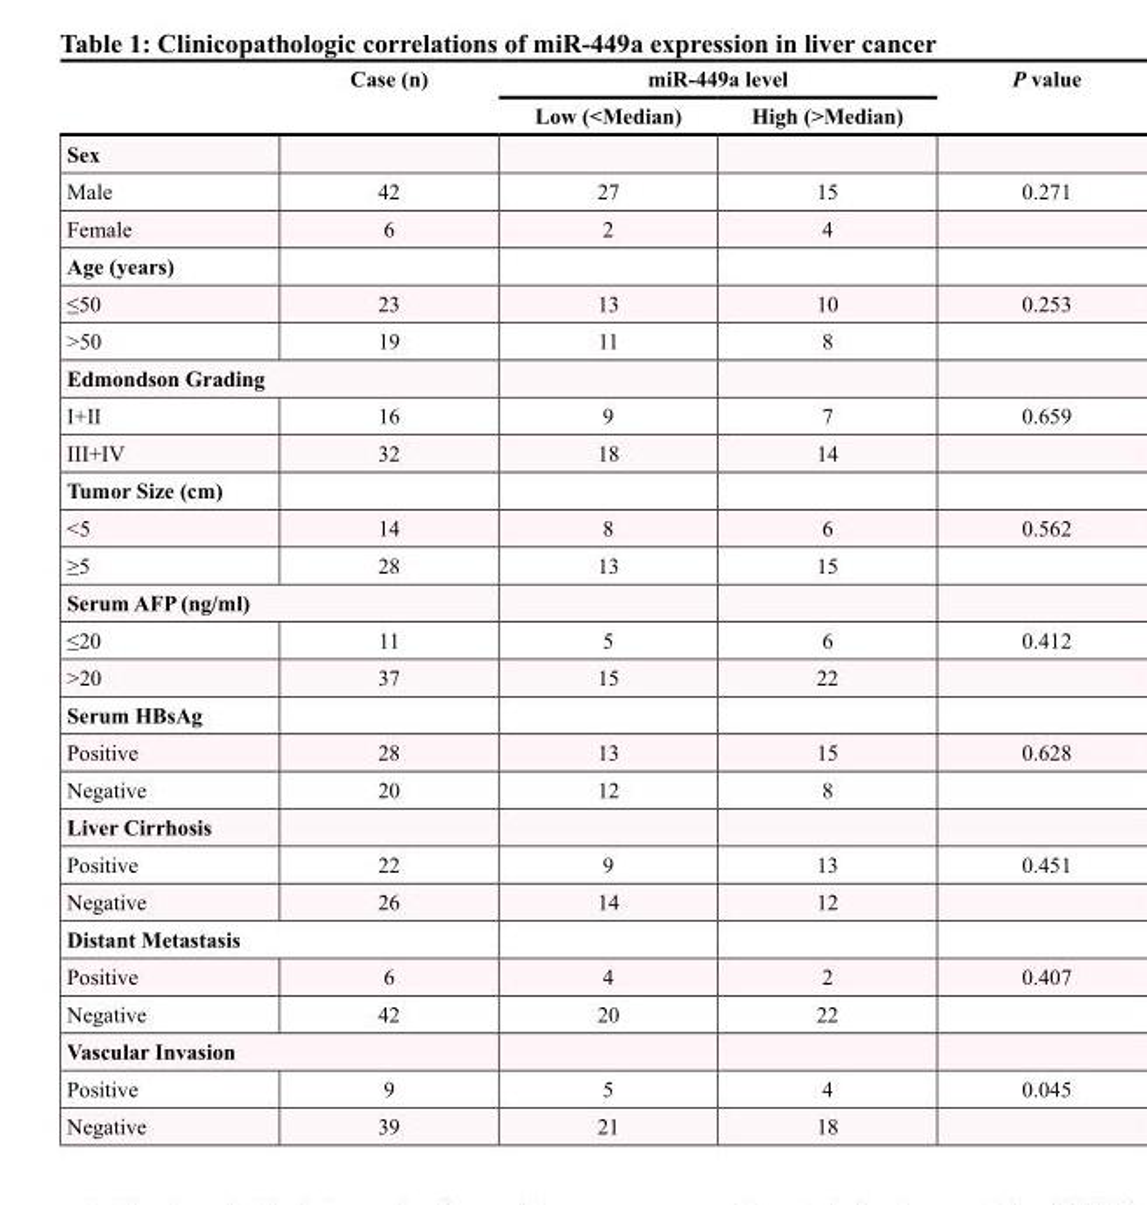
<table><thead><tr><td rowspan="2"></td><td rowspan="2">Case (n)</td><td colspan="2">miR-449a level</td><td rowspan="2">P value</td></tr><tr><td>Low (&lt;Median)</td><td>High (&gt;Median)</td></tr></thead><tbody><tr><td colspan="5">Sex</td></tr><tr><td>Male</td><td>42</td><td>27</td><td>15</td><td>0.271</td></tr><tr><td>Female</td><td>6</td><td>2</td><td>4</td><td></td></tr><tr><td colspan="5">Age (years)</td></tr><tr><td>≤50</td><td>23</td><td>13</td><td>10</td><td>0.253</td></tr><tr><td>&gt;50</td><td>19</td><td>11</td><td>8</td><td></td></tr><tr><td colspan="5">Edmondson Grading</td></tr><tr><td>I+II</td><td>16</td><td>9</td><td>7</td><td>0.659</td></tr><tr><td>III+IV</td><td>32</td><td>18</td><td>14</td><td></td></tr><tr><td colspan="5">Tumor Size (cm)</td></tr><tr><td>&lt;5</td><td>14</td><td>8</td><td>6</td><td>0.562</td></tr><tr><td>≥5</td><td>28</td><td>13</td><td>15</td><td></td></tr><tr><td colspan="5">Serum AFP (ng/ml)</td></tr><tr><td>≤20</td><td>11</td><td>5</td><td>6</td><td>0.412</td></tr><tr><td>&gt;20</td><td>37</td><td>15</td><td>22</td><td></td></tr><tr><td colspan="5">Serum HBsAg</td></tr><tr><td>Positive</td><td>28</td><td>13</td><td>15</td><td>0.628</td></tr><tr><td>Negative</td><td>20</td><td>12</td><td>8</td><td></td></tr><tr><td colspan="5">Liver Cirrhosis</td></tr><tr><td>Positive</td><td>22</td><td>9</td><td>13</td><td>0.451</td></tr><tr><td>Negative</td><td>26</td><td>14</td><td>12</td><td></td></tr><tr><td colspan="5">Distant Metastasis</td></tr><tr><td>Positive</td><td>6</td><td>4</td><td>2</td><td>0.407</td></tr><tr><td>Negative</td><td>42</td><td>20</td><td>22</td><td></td></tr><tr><td colspan="5">Vascular Invasion</td></tr><tr><td>Positive</td><td>9</td><td>5</td><td>4</td><td>0.045</td></tr><tr><td>Negative</td><td>39</td><td>21</td><td>18</td><td></td></tr></tbody></table>